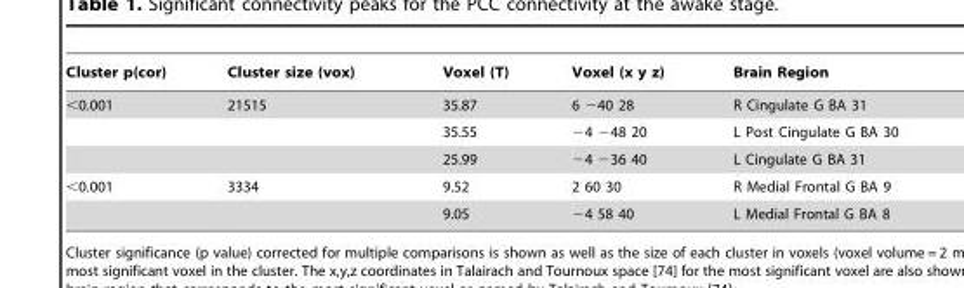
<table><thead><tr><td>Cluster p(cor)</td><td>Cluster size (vox)</td><td>Voxel (T)</td><td>Voxel (x y z)</td><td>Brain Region</td></tr></thead><tbody><tr><td rowspan="3">&lt;0.001</td><td>21515</td><td>35.87</td><td>6 −40 28</td><td>R Cingulate G BA 31</td></tr><tr><td></td><td>35.55</td><td>−4 −48 20</td><td>L Post Cingulate G BA 30</td></tr><tr><td></td><td>25.99</td><td>−4 −36 40</td><td>L Cingulate G BA 31</td></tr><tr><td rowspan="2">&lt;0.001</td><td>3334</td><td>9.52</td><td>2 60 30</td><td>R Medial Frontal G BA 9</td></tr><tr><td></td><td>9.05</td><td>−4 58 40</td><td>L Medial Frontal G BA 8</td></tr></tbody></table>